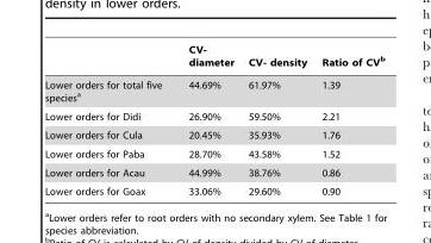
<table><thead><tr><td></td><td>CV- diameter</td><td>CV- density</td><td>Ratio of CV<sup>b</sup></td></tr></thead><tbody><tr><td>Lower orders for total five species<sup>a</sup></td><td>44.69%</td><td>61.97%</td><td>1.39</td></tr><tr><td>Lower orders for Didi</td><td>26.90%</td><td>59.50%</td><td>2.21</td></tr><tr><td>Lower orders for Cula</td><td>20.45%</td><td>35.93%</td><td>1.76</td></tr><tr><td>Lower orders for Paba</td><td>28.70%</td><td>43.58%</td><td>1.52</td></tr><tr><td>Lower orders for Acau</td><td>44.99%</td><td>38.76%</td><td>0.86</td></tr><tr><td>Lower orders for Goax</td><td>33.06%</td><td>29.60%</td><td>0.90</td></tr></tbody></table>